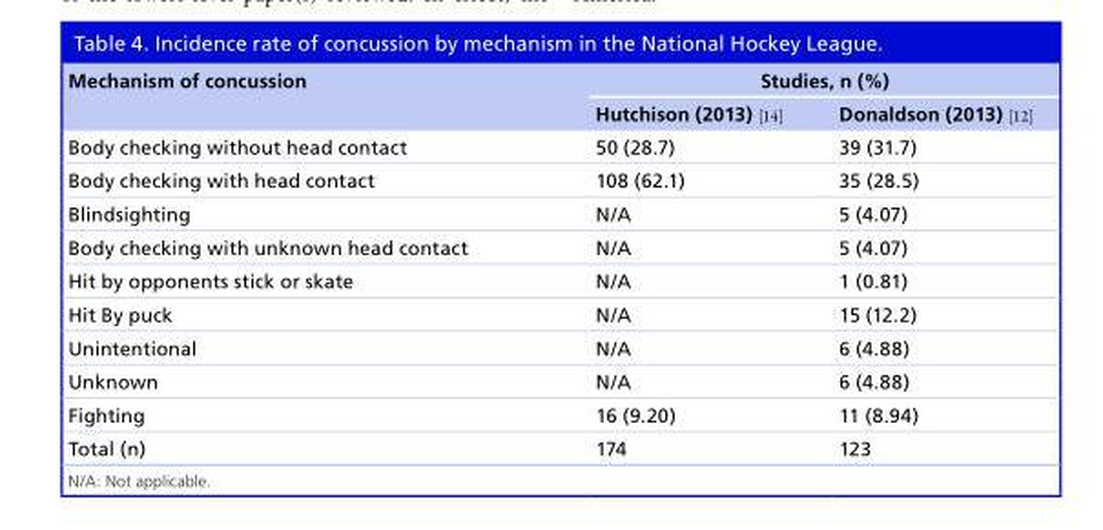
<table><thead><tr><td rowspan="2">Mechanism of concussion</td><td colspan="2">Studies, n (%)</td></tr><tr><td>Hutchison (2013) [14]</td><td>Donaldson (2013) [12]</td></tr></thead><tbody><tr><td>Body checking without head contact</td><td>50 (28.7)</td><td>39 (31.7)</td></tr><tr><td>Body checking with head contact</td><td>108 (62.1)</td><td>35 (28.5)</td></tr><tr><td>Blindsighting</td><td>N/A</td><td>5 (4.07)</td></tr><tr><td>Body checking with unknown head contact</td><td>N/A</td><td>5 (4.07)</td></tr><tr><td>Hit by opponents stick or skate</td><td>N/A</td><td>1 (0.81)</td></tr><tr><td>Hit By puck</td><td>N/A</td><td>15 (12.2)</td></tr><tr><td>Unintentional</td><td>N/A</td><td>6 (4.88)</td></tr><tr><td>Unknown</td><td>N/A</td><td>6 (4.88)</td></tr><tr><td>Fighting</td><td>16 (9.20)</td><td>11 (8.94)</td></tr><tr><td>Total (n)</td><td>174</td><td>123</td></tr></tbody></table>